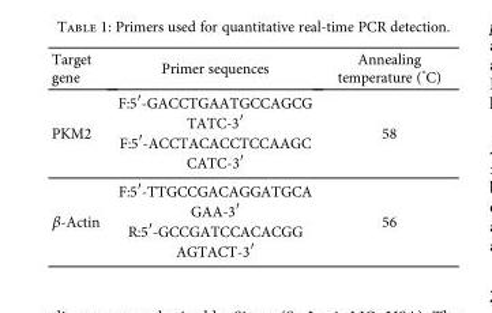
<table><thead><tr><td>Target gene</td><td>Primer sequences</td><td>Annealing temperature (°C)</td></tr></thead><tbody><tr><td>PKM2</td><td>F:5′-GACCTGAATGCCAGCG TATC-3′ F:5′-ACCTACACCTCCAAGC CATC-3′</td><td>58</td></tr><tr><td>β-Actin</td><td>F:5′-TTGCCGACAGGATGCA GAA-3′ R:5′-GCCGATCCACACGG AGTACT-3′</td><td>56</td></tr></tbody></table>